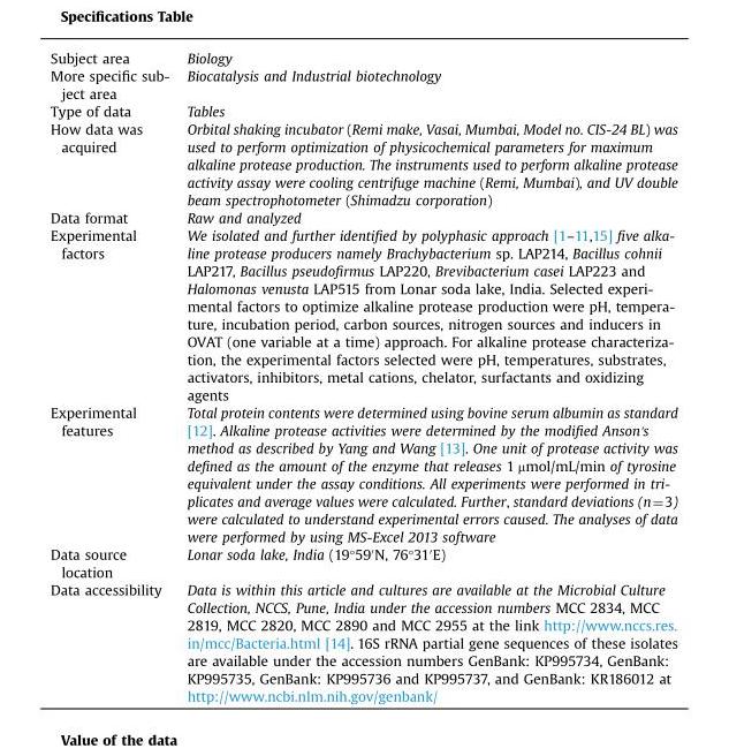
<table><tbody><tr><td>Subject area</td><td>Biology</td></tr><tr><td>More specific sub- ject area</td><td>Biocatalysis and Industrial biotechnology</td></tr><tr><td>Type of data</td><td>Tables</td></tr><tr><td>How data was acquired</td><td>Orbital shaking incubator (Remi make, Vasai, Mumbai, Model no. CIS-24 BL) was used to perform optimization of physicochemical parameters for maximum alkaline protease production. The instruments used to perform alkaline protease activity assay were cooling centrifuge machine (Remi, Mumbai), and UV double beam spectrophotometer (Shimadzu corporation)</td></tr><tr><td>Data format</td><td>Raw and analyzed</td></tr><tr><td>Experimental factors</td><td>We isolated and further identified by polyphasic approach [1–11,15] five alka- line protease producers namely Brachybacterium sp. LAP214, Bacillus cohnii LAP217, Bacillus pseudofirmus LAP220, Brevibacterium casei LAP223 and Halomonas venusta LAP515 from Lonar soda lake, India. Selected experi- mental factors to optimize alkaline protease production were pH, tempera- ture, incubation period, carbon sources, nitrogen sources and inducers in OVAT (one variable at a time) approach. For alkaline protease characteriza- tion, the experimental factors selected were pH, temperatures, substrates, activators, inhibitors, metal cations, chelator, surfactants and oxidizing agents</td></tr><tr><td>Experimental features</td><td>Total protein contents were determined using bovine serum albumin as standard [12]. Alkaline protease activities were determined by the modified Anson&#x27;s method as described by Yang and Wang [13]. One unit of protease activity was defined as the amount of the enzyme that releases 1 mmol/mL/min of tyrosine equivalent under the assay conditions. All experiments were performed in tri- plicates and average values were calculated. Further, standard deviations (n¼3) were calculated to understand experimental errors caused. The analyses of data were performed by using MS-Excel 2013 software</td></tr><tr><td>Data source location</td><td>Lonar soda lake, India (19°59′N, 76°31′E)</td></tr><tr><td>Data accessibility</td><td>Data is within this article and cultures are available at the Microbial Culture Collection, NCCS, Pune, India under the accession numbers MCC 2834, MCC 2819, MCC 2820, MCC 2890 and MCC 2955 at the link http://www.nccs.res. in/mcc/Bacteria.html [14]. 16S rRNA partial gene sequences of these isolates are available under the accession numbers GenBank: KP995734, GenBank: KP995735, GenBank: KP995736 and KP995737, and GenBank: KR186012 at http://www.ncbi.nlm.nih.gov/genbank/</td></tr></tbody></table>